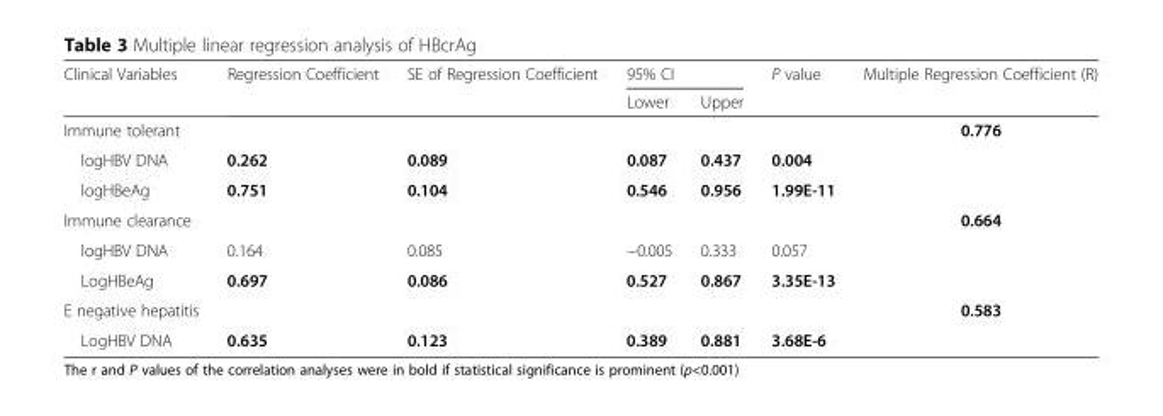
<table><thead><tr><td rowspan="2">Clinical Variables</td><td rowspan="2">Regression Coefficient</td><td rowspan="2">SE of Regression Coefficient</td><td colspan="2">95% CI</td><td rowspan="2">P value</td><td rowspan="2">Multiple Regression Coefficient (R)</td></tr><tr><td>Lower</td><td>Upper</td></tr></thead><tbody><tr><td>Immune tolerant</td><td></td><td></td><td></td><td></td><td></td><td>0.776</td></tr><tr><td>logHBV DNA</td><td>0.262</td><td>0.089</td><td>0.087</td><td>0.437</td><td>0.004</td><td></td></tr><tr><td>logHBeAg</td><td>0.751</td><td>0.104</td><td>0.546</td><td>0.956</td><td>1.99E-11</td><td></td></tr><tr><td>Immune clearance</td><td></td><td></td><td></td><td></td><td></td><td>0.664</td></tr><tr><td>logHBV DNA</td><td>0.164</td><td>0.085</td><td>−0.005</td><td>0.333</td><td>0.057</td><td></td></tr><tr><td>LogHBeAg</td><td>0.697</td><td>0.086</td><td>0.527</td><td>0.867</td><td>3.35E-13</td><td></td></tr><tr><td>E negative hepatitis</td><td></td><td></td><td></td><td></td><td></td><td>0.583</td></tr><tr><td>LogHBV DNA</td><td>0.635</td><td>0.123</td><td>0.389</td><td>0.881</td><td>3.68E-6</td><td></td></tr></tbody></table>